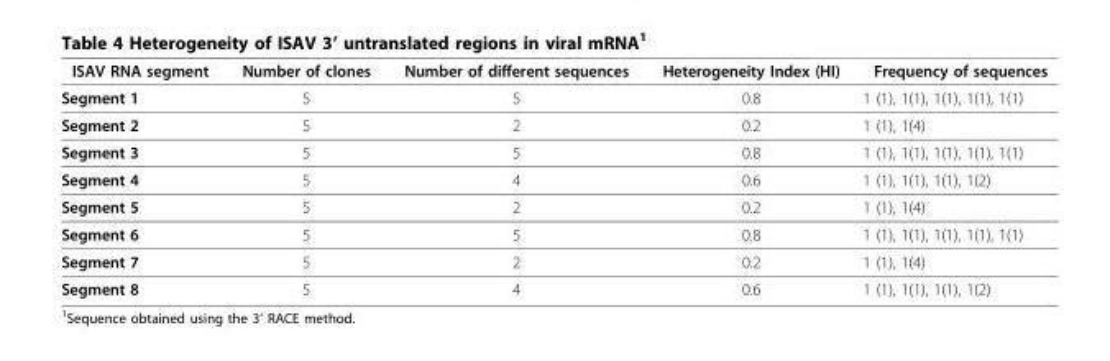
<table><thead><tr><td>ISAV RNA segment</td><td>Number of clones</td><td>Number of different sequences</td><td>Heterogeneity Index (HI)</td><td>Frequency of sequences</td></tr></thead><tbody><tr><td>Segment 1</td><td>5</td><td>5</td><td>0.8</td><td>1 (1), 1(1), 1(1), 1(1), 1(1)</td></tr><tr><td>Segment 2</td><td>5</td><td>2</td><td>0.2</td><td>1 (1), 1(4)</td></tr><tr><td>Segment 3</td><td>5</td><td>5</td><td>0.8</td><td>1 (1), 1(1), 1(1), 1(1), 1(1)</td></tr><tr><td>Segment 4</td><td>5</td><td>4</td><td>0.6</td><td>1 (1), 1(1), 1(1), 1(2)</td></tr><tr><td>Segment 5</td><td>5</td><td>2</td><td>0.2</td><td>1 (1), 1(4)</td></tr><tr><td>Segment 6</td><td>5</td><td>5</td><td>0.8</td><td>1 (1), 1(1), 1(1), 1(1), 1(1)</td></tr><tr><td>Segment 7</td><td>5</td><td>2</td><td>0.2</td><td>1 (1), 1(4)</td></tr><tr><td>Segment 8</td><td>5</td><td>4</td><td>0.6</td><td>1 (1), 1(1), 1(1), 1(2)</td></tr></tbody></table>